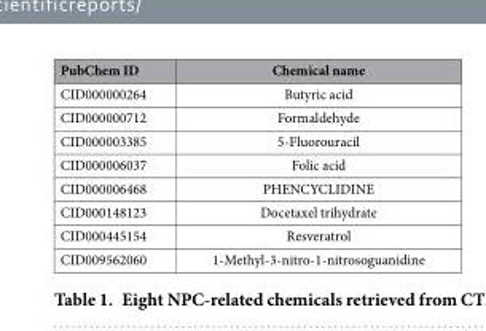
<table><thead><tr><td>PubChem ID</td><td>Chemical name</td></tr></thead><tbody><tr><td>CID000000264</td><td>Butyric acid</td></tr><tr><td>CID000000712</td><td>Formaldehyde</td></tr><tr><td>CID000003385</td><td>5-Fluorouracil</td></tr><tr><td>CID000006037</td><td>Folic acid</td></tr><tr><td>CID000006468</td><td>PHENCYCLIDINE</td></tr><tr><td>CID000148123</td><td>Docetaxel trihydrate</td></tr><tr><td>CID000445154</td><td>Resveratrol</td></tr><tr><td>CID009562060</td><td>1-Methyl-3-nitro-1-nitrosoguanidine</td></tr></tbody></table>